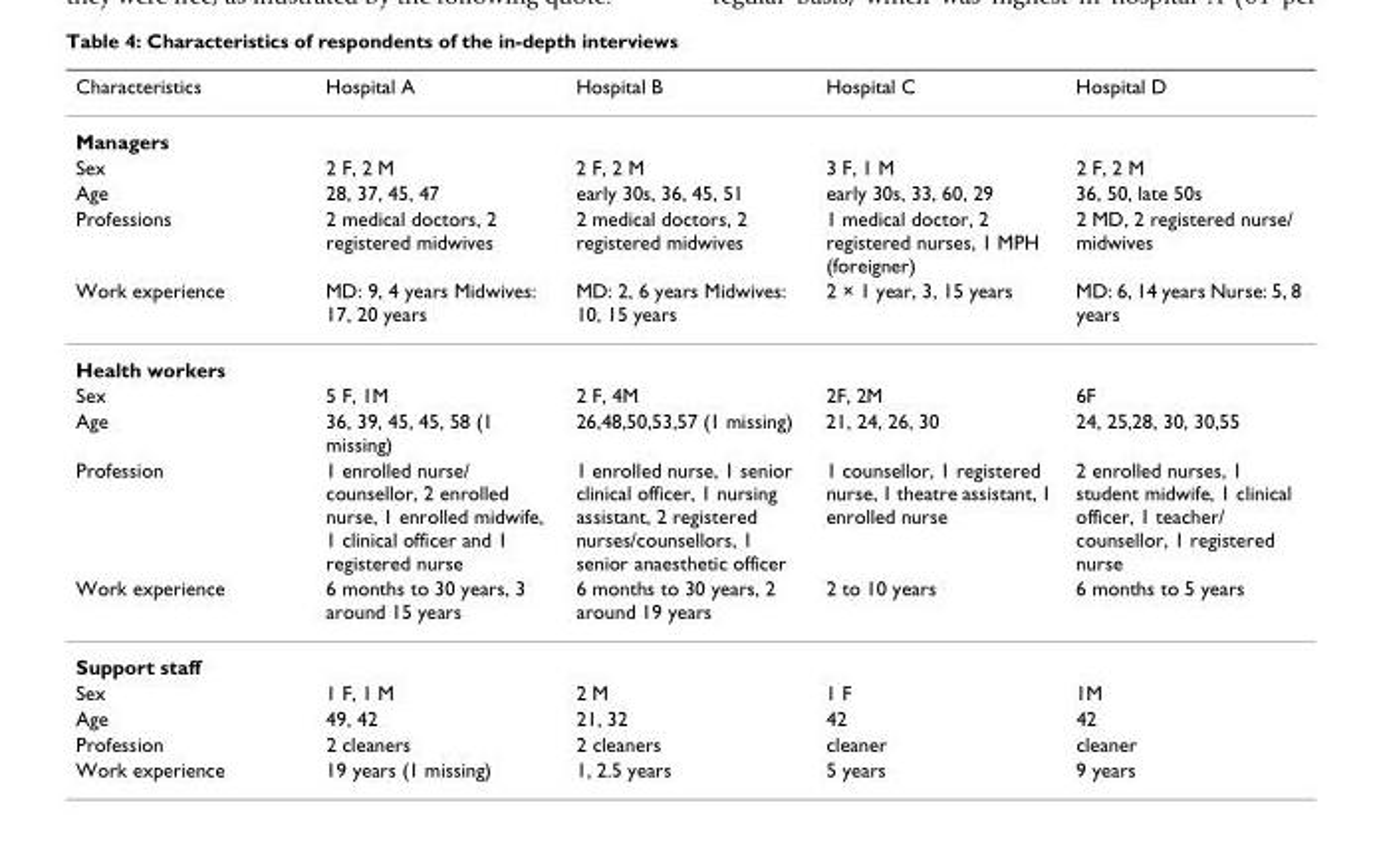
<table><thead><tr><td>Characteristics</td><td>Hospital A</td><td>Hospital B</td><td>Hospital C</td><td>Hospital D</td></tr></thead><tbody><tr><td colspan="5">Managers</td></tr><tr><td>Sex</td><td>2 F, 2 M</td><td>2 F, 2 M</td><td>3 F, 1 M</td><td>2 F, 2 M</td></tr><tr><td>Age</td><td>28, 37, 45, 47</td><td>early 30s, 36, 45, 51</td><td>early 30s, 33, 60, 29</td><td>36, 50, late 50s</td></tr><tr><td>Professions</td><td>2 medical doctors, 2 registered midwives</td><td>2 medical doctors, 2 registered midwives</td><td>1 medical doctor, 2 registered nurses, 1 MPH (foreigner)</td><td>2 MD, 2 registered nurse/ midwives</td></tr><tr><td>Work experience</td><td>MD: 9, 4 years Midwives: 17, 20 years</td><td>MD: 2, 6 years Midwives: 10, 15 years</td><td>2 × 1 year, 3, 15 years</td><td>MD: 6, 14 years Nurse: 5, 8 years</td></tr><tr><td colspan="5">Health workers</td></tr><tr><td>Sex</td><td>5 F, 1M</td><td>2 F, 4M</td><td>2F, 2M</td><td>6F</td></tr><tr><td>Age</td><td>36, 39, 45, 45, 58 (1 missing)</td><td>26,48,50,53,57 (1 missing)</td><td>21, 24, 26, 30</td><td>24, 25,28, 30, 30,55</td></tr><tr><td>Profession</td><td>1 enrolled nurse/ counsellor, 2 enrolled nurse, 1 enrolled midwife, 1 clinical officer and 1 registered nurse</td><td>1 enrolled nurse, 1 senior clinical officer, 1 nursing assistant, 2 registered nurses/counsellors, 1 senior anaesthetic officer</td><td>1 counsellor, 1 registered nurse, 1 theatre assistant, 1 enrolled nurse</td><td>2 enrolled nurses, 1 student midwife, 1 clinical officer, 1 teacher/ counsellor, 1 registered nurse</td></tr><tr><td>Work experience</td><td>6 months to 30 years, 3 around 15 years</td><td>6 months to 30 years, 2 around 19 years</td><td>2 to 10 years</td><td>6 months to 5 years</td></tr><tr><td colspan="5">Support staff</td></tr><tr><td>Sex</td><td>1 F, 1 M</td><td>2 M</td><td>1 F</td><td>1M</td></tr><tr><td>Age</td><td>49, 42</td><td>21, 32</td><td>42</td><td>42</td></tr><tr><td>Profession</td><td>2 cleaners</td><td>2 cleaners</td><td>cleaner</td><td>cleaner</td></tr><tr><td>Work experience</td><td>19 years (1 missing)</td><td>1, 2.5 years</td><td>5 years</td><td>9 years</td></tr></tbody></table>